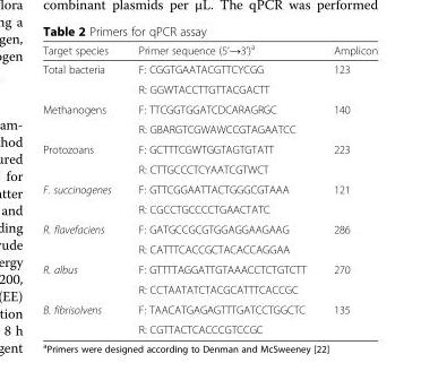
<table><thead><tr><td>Target species</td><td>Primer sequence (5’→3’)<sup>a</sup></td><td>Amplicon</td></tr></thead><tbody><tr><td rowspan="2">Total bacteria</td><td>F: CGGTGAATACGTTCYCGG</td><td rowspan="2">123</td></tr><tr><td>R: GGWTACCTTGTTACGACTT</td></tr><tr><td rowspan="2">Methanogens</td><td>F: TTCGGTGGATCDCARAGRGC</td><td rowspan="2">140</td></tr><tr><td>R: GBARGTCGWAWCCGTAGAATCC</td></tr><tr><td rowspan="2">Protozoans</td><td>F: GCTTTCGWTGGTAGTGTATT</td><td rowspan="2">223</td></tr><tr><td>R: CTTGCCCTCYAATCGTWCT</td></tr><tr><td rowspan="2">F. succinogenes</td><td>F: GTTCGGAATTACTGGGCGTAAA</td><td rowspan="2">121</td></tr><tr><td>R: CGCCTGCCCCTGAACTATC</td></tr><tr><td rowspan="2">R. flavefaciens</td><td>F: GATGCCGCGTGGAGGAAGAAG</td><td rowspan="2">286</td></tr><tr><td>R: CATTTCACCGCTACACCAGGAA</td></tr><tr><td rowspan="2">R. albus</td><td>F: GTTTTAGGATTGTAAACCTCTGTCTT</td><td rowspan="2">270</td></tr><tr><td>R: CCTAATATCTACGCATTTCACCGC</td></tr><tr><td rowspan="2">B. fibrisolvens</td><td>F: TAACATGAGAGTTTGATCCTGGCTC</td><td rowspan="2">135</td></tr><tr><td>R: CGTTACTCACCCGTCCGC</td></tr></tbody></table>